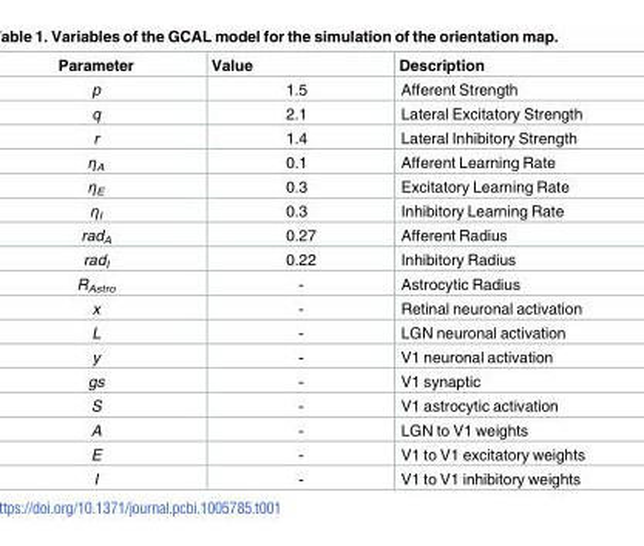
<table><thead><tr><td>Parameter</td><td>Value</td><td>Description</td></tr></thead><tbody><tr><td>p</td><td>1.5</td><td>Afferent Strength</td></tr><tr><td>q</td><td>2.1</td><td>Lateral Excitatory Strength</td></tr><tr><td>r</td><td>1.4</td><td>Lateral Inhibitory Strength</td></tr><tr><td>η<sub>A</sub></td><td>0.1</td><td>Afferent Learning Rate</td></tr><tr><td>η<sub>E</sub></td><td>0.3</td><td>Excitatory Learning Rate</td></tr><tr><td>η<sub>I</sub></td><td>0.3</td><td>Inhibitory Learning Rate</td></tr><tr><td>rad<sub>A</sub></td><td>0.27</td><td>Afferent Radius</td></tr><tr><td>rad<sub>I</sub></td><td>0.22</td><td>Inhibitory Radius</td></tr><tr><td>R<sub>Astro</sub></td><td>-</td><td>Astrocytic Radius</td></tr><tr><td>x</td><td>-</td><td>Retinal neuronal activation</td></tr><tr><td>L</td><td>-</td><td>LGN neuronal activation</td></tr><tr><td>y</td><td>-</td><td>V1 neuronal activation</td></tr><tr><td>gs</td><td>-</td><td>V1 synaptic</td></tr><tr><td>S</td><td>-</td><td>V1 astrocytic activation</td></tr><tr><td>A</td><td>-</td><td>LGN to V1 weights</td></tr><tr><td>E</td><td>-</td><td>V1 to V1 excitatory weights</td></tr><tr><td>I</td><td>-</td><td>V1 to V1 inhibitory weights</td></tr></tbody></table>